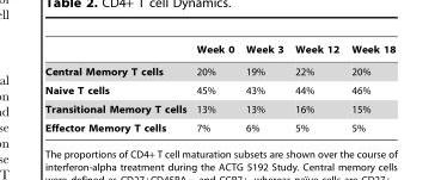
<table><thead><tr><td></td><td>Week 0</td><td>Week 3</td><td>Week 12</td><td>Week 18</td></tr></thead><tbody><tr><td>Central Memory T cells</td><td>20%</td><td>19%</td><td>22%</td><td>20%</td></tr><tr><td>Naive T cells</td><td>45%</td><td>43%</td><td>44%</td><td>46%</td></tr><tr><td>Transitional Memory T cells</td><td>13%</td><td>13%</td><td>16%</td><td>15%</td></tr><tr><td>Effector Memory T cells</td><td>7%</td><td>6%</td><td>5%</td><td>5%</td></tr></tbody></table>